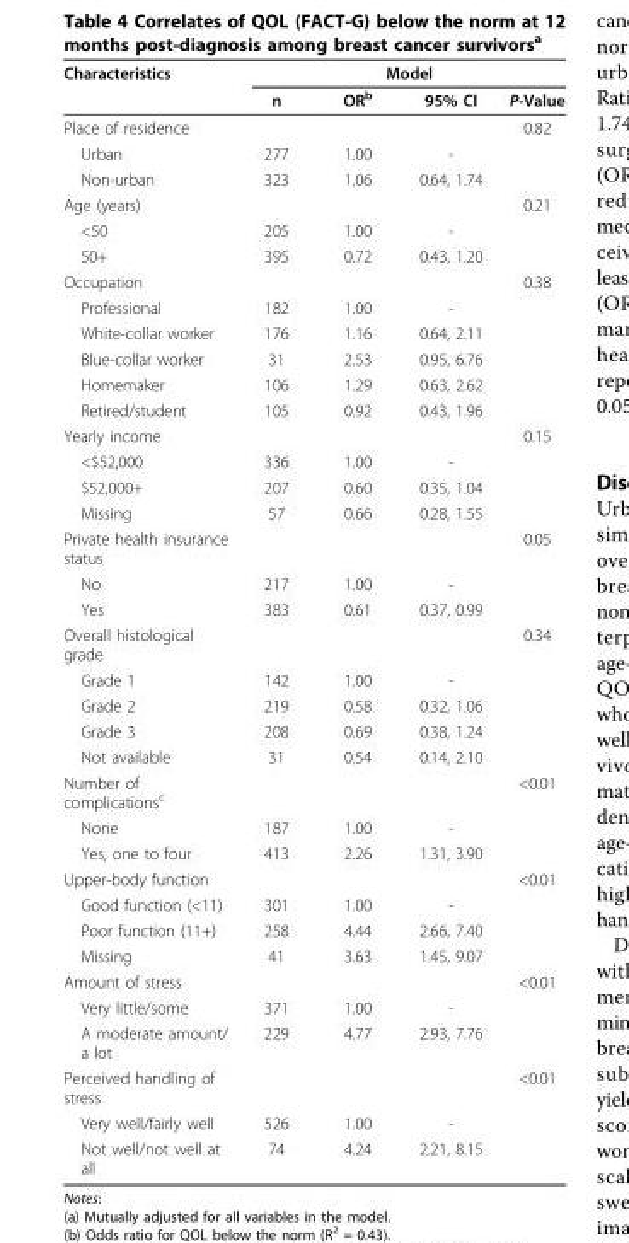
<table><thead><tr><td rowspan="2">Characteristics</td><td colspan="4">Model</td></tr><tr><td>n</td><td>OR<sup>b</sup></td><td>95% CI</td><td>P-Value</td></tr></thead><tbody><tr><td>Place of residence</td><td></td><td></td><td></td><td>0.82</td></tr><tr><td>Urban</td><td>277</td><td>1.00</td><td>-</td><td></td></tr><tr><td>Non-urban</td><td>323</td><td>1.06</td><td>0.64, 1.74</td><td></td></tr><tr><td>Age (years)</td><td></td><td></td><td></td><td>0.21</td></tr><tr><td>&lt;50</td><td>205</td><td>1.00</td><td>-</td><td></td></tr><tr><td>50+</td><td>395</td><td>0.72</td><td>0.43, 1.20</td><td></td></tr><tr><td>Occupation</td><td></td><td></td><td></td><td>0.38</td></tr><tr><td>Professional</td><td>182</td><td>1.00</td><td>-</td><td></td></tr><tr><td>White-collar worker</td><td>176</td><td>1.16</td><td>0.64, 2.11</td><td></td></tr><tr><td>Blue-collar worker</td><td>31</td><td>2.53</td><td>0.95, 6.76</td><td></td></tr><tr><td>Homemaker</td><td>106</td><td>1.29</td><td>0.63, 2.62</td><td></td></tr><tr><td>Retired/student</td><td>105</td><td>0.92</td><td>0.43, 1.96</td><td></td></tr><tr><td>Yearly income</td><td></td><td></td><td></td><td>0.15</td></tr><tr><td>&lt;$52,000</td><td>336</td><td>1.00</td><td>-</td><td></td></tr><tr><td>$52,000+</td><td>207</td><td>0.60</td><td>0.35, 1.04</td><td></td></tr><tr><td>Missing</td><td>57</td><td>0.66</td><td>0.28, 1.55</td><td></td></tr><tr><td>Private health insurance status</td><td></td><td></td><td></td><td>0.05</td></tr><tr><td>No</td><td>217</td><td>1.00</td><td>-</td><td></td></tr><tr><td>Yes</td><td>383</td><td>0.61</td><td>0.37, 0.99</td><td></td></tr><tr><td>Overall histological grade</td><td></td><td></td><td></td><td>0.34</td></tr><tr><td>Grade 1</td><td>142</td><td>1.00</td><td>-</td><td></td></tr><tr><td>Grade 2</td><td>219</td><td>0.58</td><td>0.32, 1.06</td><td></td></tr><tr><td>Grade 3</td><td>208</td><td>0.69</td><td>0.38, 1.24</td><td></td></tr><tr><td>Not available</td><td>31</td><td>0.54</td><td>0.14, 2.10</td><td></td></tr><tr><td>Number of complications<sup>c</sup></td><td></td><td></td><td></td><td>&lt;0.01</td></tr><tr><td>None</td><td>187</td><td>1.00</td><td>-</td><td></td></tr><tr><td>Yes, one to four</td><td>413</td><td>2.26</td><td>1.31, 3.90</td><td></td></tr><tr><td>Upper-body function</td><td></td><td></td><td></td><td>&lt;0.01</td></tr><tr><td>Good function (&lt;11)</td><td>301</td><td>1.00</td><td>-</td><td></td></tr><tr><td>Poor function (11+)</td><td>258</td><td>4.44</td><td>2.66, 7.40</td><td></td></tr><tr><td>Missing</td><td>41</td><td>3.63</td><td>1.45, 9.07</td><td></td></tr><tr><td>Amount of stress</td><td></td><td></td><td></td><td>&lt;0.01</td></tr><tr><td>Very little/some</td><td>371</td><td>1.00</td><td>-</td><td></td></tr><tr><td>A moderate amount/ a lot</td><td>229</td><td>4.77</td><td>2.93, 7.76</td><td></td></tr><tr><td>Perceived handling of stress</td><td></td><td></td><td></td><td>&lt;0.01</td></tr><tr><td>Very well/fairly well</td><td>526</td><td>1.00</td><td>-</td><td></td></tr><tr><td>Not well/not well at all</td><td>74</td><td>4.24</td><td>2.21, 8.15</td><td></td></tr></tbody></table>